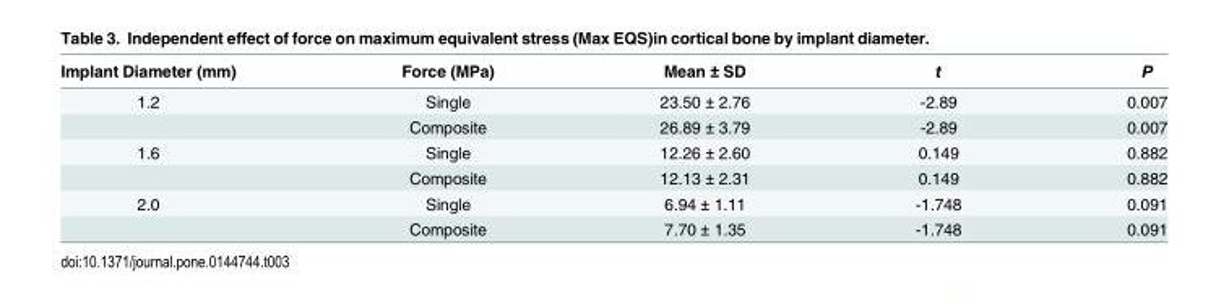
<table><thead><tr><td>Implant Diameter (mm)</td><td>Force (MPa)</td><td>Mean ± SD</td><td>t</td><td>P</td></tr></thead><tbody><tr><td rowspan="2">1.2</td><td>Single</td><td>23.50 ± 2.76</td><td>-2.89</td><td>0.007</td></tr><tr><td>Composite</td><td>26.89 ± 3.79</td><td>-2.89</td><td>0.007</td></tr><tr><td rowspan="2">1.6</td><td>Single</td><td>12.26 ± 2.60</td><td>0.149</td><td>0.882</td></tr><tr><td>Composite</td><td>12.13 ± 2.31</td><td>0.149</td><td>0.882</td></tr><tr><td rowspan="2">2.0</td><td>Single</td><td>6.94 ± 1.11</td><td>-1.748</td><td>0.091</td></tr><tr><td>Composite</td><td>7.70 ± 1.35</td><td>-1.748</td><td>0.091</td></tr></tbody></table>